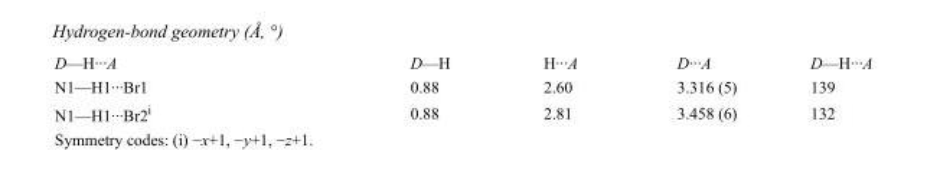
<table><tbody><tr><td>D—H···A</td><td>D—H</td><td>H···A</td><td>D···A</td><td>D—H···A</td></tr><tr><td>N1—H1···Br1</td><td>0.88</td><td>2.60</td><td>3.316 (5)</td><td>139</td></tr><tr><td>N1—H1···Br2<sup>i</sup></td><td>0.88</td><td>2.81</td><td>3.458 (6)</td><td>132</td></tr></tbody></table>